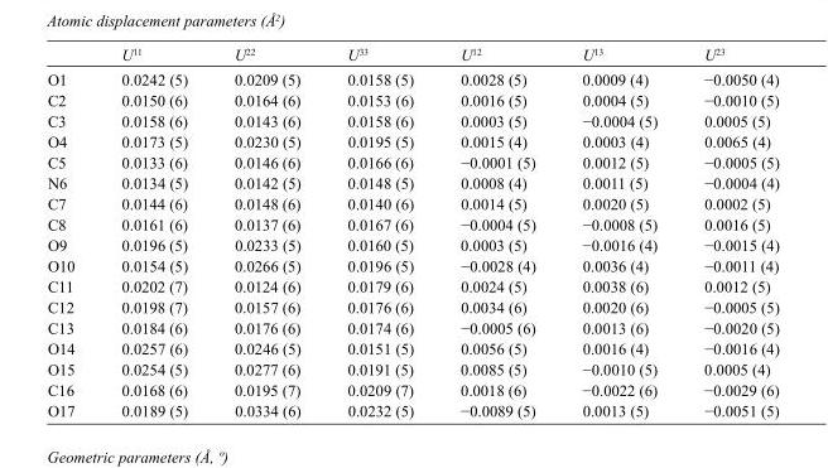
<table><thead><tr><td></td><td>U<sup>11</sup></td><td>U<sup>22</sup></td><td>U<sup>33</sup></td><td>U<sup>12</sup></td><td>U<sup>13</sup></td><td>U<sup>23</sup></td></tr></thead><tbody><tr><td>O1</td><td>0.0242 (5)</td><td>0.0209 (5)</td><td>0.0158 (5)</td><td>0.0028 (5)</td><td>0.0009 (4)</td><td>−0.0050 (4)</td></tr><tr><td>C2</td><td>0.0150 (6)</td><td>0.0164 (6)</td><td>0.0153 (6)</td><td>0.0016 (5)</td><td>0.0004 (5)</td><td>−0.0010 (5)</td></tr><tr><td>C3</td><td>0.0158 (6)</td><td>0.0143 (6)</td><td>0.0158 (6)</td><td>0.0003 (5)</td><td>−0.0004 (5)</td><td>0.0005 (5)</td></tr><tr><td>O4</td><td>0.0173 (5)</td><td>0.0230 (5)</td><td>0.0195 (5)</td><td>0.0015 (4)</td><td>0.0003 (4)</td><td>0.0065 (4)</td></tr><tr><td>C5</td><td>0.0133 (6)</td><td>0.0146 (6)</td><td>0.0166 (6)</td><td>−0.0001 (5)</td><td>0.0012 (5)</td><td>−0.0005 (5)</td></tr><tr><td>N6</td><td>0.0134 (5)</td><td>0.0142 (5)</td><td>0.0148 (5)</td><td>0.0008 (4)</td><td>0.0011 (5)</td><td>−0.0004 (4)</td></tr><tr><td>C7</td><td>0.0144 (6)</td><td>0.0148 (6)</td><td>0.0140 (6)</td><td>0.0014 (5)</td><td>0.0020 (5)</td><td>0.0002 (5)</td></tr><tr><td>C8</td><td>0.0161 (6)</td><td>0.0137 (6)</td><td>0.0167 (6)</td><td>−0.0004 (5)</td><td>−0.0008 (5)</td><td>0.0016 (5)</td></tr><tr><td>O9</td><td>0.0196 (5)</td><td>0.0233 (5)</td><td>0.0160 (5)</td><td>0.0003 (5)</td><td>−0.0016 (4)</td><td>−0.0015 (4)</td></tr><tr><td>O10</td><td>0.0154 (5)</td><td>0.0266 (5)</td><td>0.0196 (5)</td><td>−0.0028 (4)</td><td>0.0036 (4)</td><td>−0.0011 (4)</td></tr><tr><td>C11</td><td>0.0202 (7)</td><td>0.0124 (6)</td><td>0.0179 (6)</td><td>0.0024 (5)</td><td>0.0038 (6)</td><td>0.0012 (5)</td></tr><tr><td>C12</td><td>0.0198 (7)</td><td>0.0157 (6)</td><td>0.0176 (6)</td><td>0.0034 (6)</td><td>0.0020 (6)</td><td>−0.0005 (5)</td></tr><tr><td>C13</td><td>0.0184 (6)</td><td>0.0176 (6)</td><td>0.0174 (6)</td><td>−0.0005 (6)</td><td>0.0013 (6)</td><td>−0.0020 (5)</td></tr><tr><td>O14</td><td>0.0257 (6)</td><td>0.0246 (5)</td><td>0.0151 (5)</td><td>0.0056 (5)</td><td>0.0016 (4)</td><td>−0.0016 (4)</td></tr><tr><td>O15</td><td>0.0254 (5)</td><td>0.0277 (6)</td><td>0.0191 (5)</td><td>0.0085 (5)</td><td>−0.0010 (5)</td><td>0.0005 (4)</td></tr><tr><td>C16</td><td>0.0168 (6)</td><td>0.0195 (7)</td><td>0.0209 (7)</td><td>0.0018 (6)</td><td>−0.0022 (6)</td><td>−0.0029 (6)</td></tr><tr><td>O17</td><td>0.0189 (5)</td><td>0.0334 (6)</td><td>0.0232 (5)</td><td>−0.0089 (5)</td><td>0.0013 (5)</td><td>−0.0051 (5)</td></tr></tbody></table>